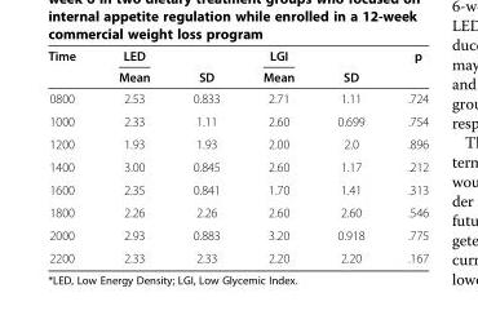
<table><thead><tr><td rowspan="2">Time</td><td rowspan="2">LED Mean</td><td rowspan="2">SD</td><td rowspan="2">LGI Mean</td><td rowspan="2">SD</td><td rowspan="2">p</td></tr><tr></tr></thead><tbody><tr><td>0800</td><td>2.53</td><td>0.833</td><td>2.71</td><td>1.11</td><td>.724</td></tr><tr><td>1000</td><td>2.33</td><td>1.11</td><td>2.60</td><td>0.699</td><td>.754</td></tr><tr><td>1200</td><td>1.93</td><td>1.93</td><td>2.00</td><td>2.0</td><td>.896</td></tr><tr><td>1400</td><td>3.00</td><td>0.845</td><td>2.60</td><td>1.17</td><td>.212</td></tr><tr><td>1600</td><td>2.35</td><td>0.841</td><td>1.70</td><td>1.41</td><td>.313</td></tr><tr><td>1800</td><td>2.26</td><td>2.26</td><td>2.60</td><td>2.60</td><td>.546</td></tr><tr><td>2000</td><td>2.93</td><td>0.883</td><td>3.20</td><td>0.918</td><td>.775</td></tr><tr><td>2200</td><td>2.33</td><td>2.33</td><td>2.20</td><td>2.20</td><td>.167</td></tr></tbody></table>